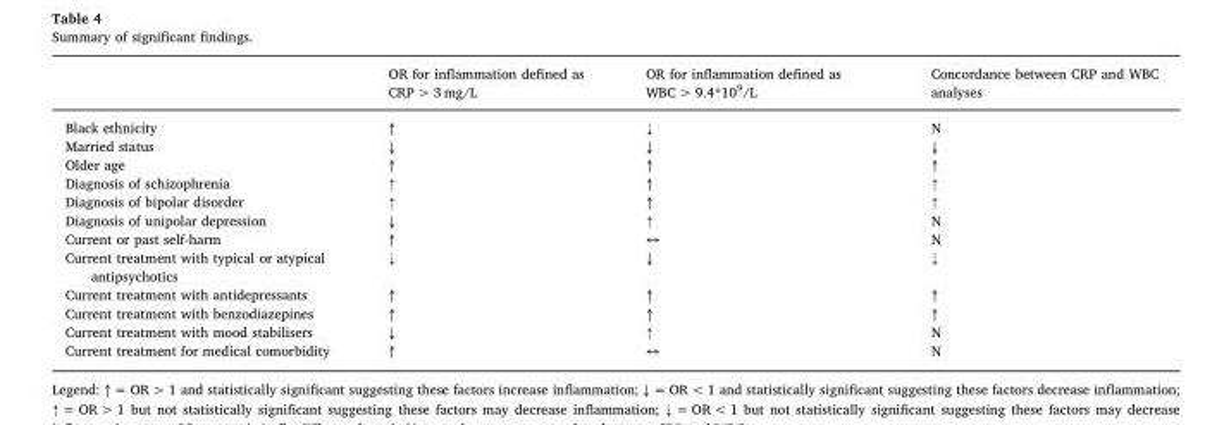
<table><thead><tr><td></td><td>OR for inflammation defined as CRP &gt; 3 mg/L</td><td>OR for inflammation defined as WBC &gt; 9.4*10<sup>9</sup>/L</td><td>Concordance between CRP and WBC analyses</td></tr></thead><tbody><tr><td>Black ethnicity</td><td>↑</td><td>⇣</td><td>N</td></tr><tr><td>Married status</td><td>↓</td><td>↓</td><td>↓</td></tr><tr><td>Older age</td><td>↑</td><td>↑</td><td>↑</td></tr><tr><td>Diagnosis of schizophrenia</td><td>⇡</td><td>↑</td><td>⇡</td></tr><tr><td>Diagnosis of bipolar disorder</td><td>⇡</td><td>↑</td><td>⇡</td></tr><tr><td>Diagnosis of unipolar depression</td><td>↓</td><td>⇡</td><td>N</td></tr><tr><td>Current or past self-harm</td><td>↑</td><td>↔</td><td>N</td></tr><tr><td>Current treatment with typical or atypical antipsychotics</td><td>⇣</td><td>↓</td><td>⇣</td></tr><tr><td>Current treatment with antidepressants</td><td>↑</td><td>↑</td><td>↑</td></tr><tr><td>Current treatment with benzodiazepines</td><td>↑</td><td>↑</td><td>↑</td></tr><tr><td>Current treatment with mood stabilisers</td><td>↓</td><td>⇡</td><td>N</td></tr><tr><td>Current treatment for medical comorbidity</td><td>↑</td><td>↔</td><td>N</td></tr></tbody></table>